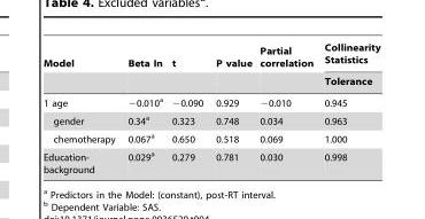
<table><thead><tr><td rowspan="2">Model</td><td rowspan="2">Beta In</td><td rowspan="2">t</td><td rowspan="2">P value</td><td rowspan="2">Partial correlation</td><td rowspan="2">Collinearity Statistics Tolerance</td></tr><tr></tr></thead><tbody><tr><td>1 age</td><td>−0.010<sup>a</sup></td><td>−0.090</td><td>0.929</td><td>−0.010</td><td>0.945</td></tr><tr><td>gender</td><td>0.34<sup>a</sup></td><td>0.323</td><td>0.748</td><td>0.034</td><td>0.963</td></tr><tr><td>chemotherapy</td><td>0.067<sup>a</sup></td><td>0.650</td><td>0.518</td><td>0.069</td><td>1.000</td></tr><tr><td>Education- background</td><td>0.029<sup>a</sup></td><td>0.279</td><td>0.781</td><td>0.030</td><td>0.998</td></tr></tbody></table>